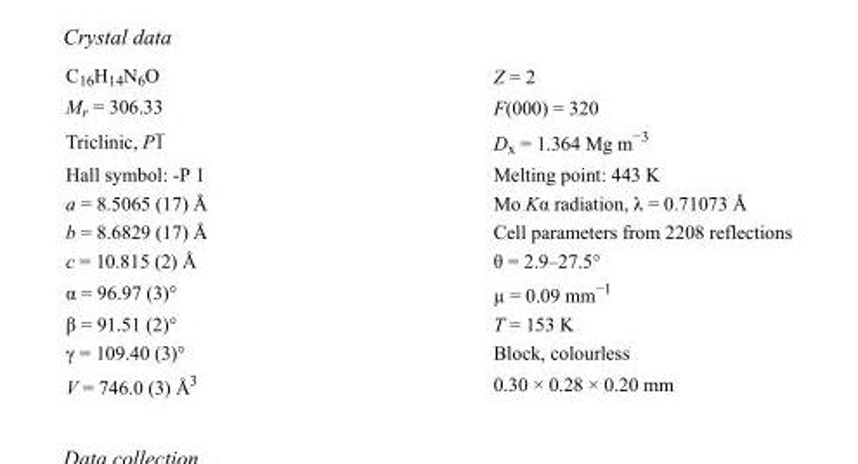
<table><tbody><tr><td>C<sub>16</sub>H<sub>14</sub>N<sub>6</sub>O</td><td>Z = 2</td></tr><tr><td>M<sub>r</sub> = 306.33</td><td>F(000) = 320</td></tr><tr><td>Triclinic, P1</td><td>D<sub>x</sub> = 1.364 Mg m<sup>−3</sup></td></tr><tr><td>Hall symbol: -P 1</td><td>Melting point: 443 K</td></tr><tr><td>a = 8.5065 (17) Å</td><td>Mo Kα radiation, λ = 0.71073 Å</td></tr><tr><td>b = 8.6829 (17) Å</td><td>Cell parameters from 2208 reflections</td></tr><tr><td>c = 10.815 (2) Å</td><td>θ = 2.9–27.5°</td></tr><tr><td>α = 96.97 (3)°</td><td>µ = 0.09 mm<sup>−1</sup></td></tr><tr><td>β = 91.51 (2)°</td><td>T = 153 K</td></tr><tr><td>γ = 109.40 (3)°</td><td>Block, colourless</td></tr><tr><td>V = 746.0 (3) Å<sup>3</sup></td><td>0.30 × 0.28 × 0.20 mm</td></tr></tbody></table>